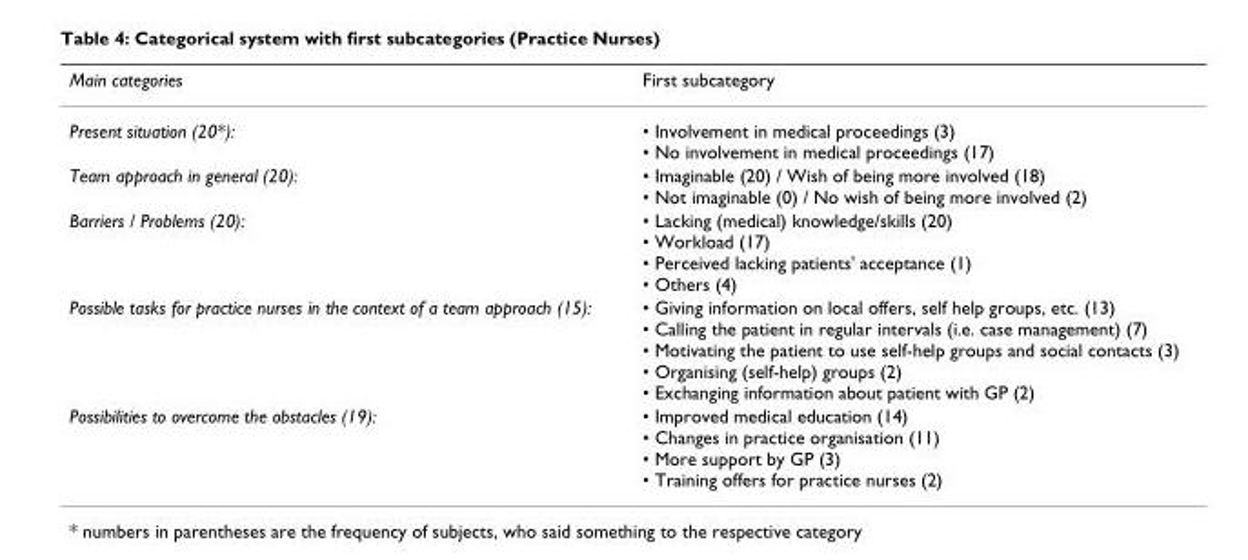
<table><thead><tr><td>Main categories</td><td>First subcategory</td></tr></thead><tbody><tr><td>Present situation (20*):</td><td>• Involvement in medical proceedings (3) • No involvement in medical proceedings (17)</td></tr><tr><td>Team approach in general (20):</td><td>• Imaginable (20) / Wish of being more involved (18) • Not imaginable (0) / No wish of being more involved (2)</td></tr><tr><td>Barriers / Problems (20):</td><td>• Lacking (medical) knowledge/skills (20) • Workload (17) • Perceived lacking patients&#x27; acceptance (1) • Others (4)</td></tr><tr><td>Possible tasks for practice nurses in the context of a team approach (15):</td><td>• Giving information on local offers, self help groups, etc. (13) • Calling the patient in regular intervals (i.e. case management) (7) • Motivating the patient to use self-help groups and social contacts (3) • Organising (self-help) groups (2) • Exchanging information about patient with GP (2)</td></tr><tr><td>Possibilities to overcome the obstacles (19):</td><td>• Improved medical education (14) • Changes in practice organisation (11) • More support by GP (3) • Training offers for practice nurses (2)</td></tr></tbody></table>